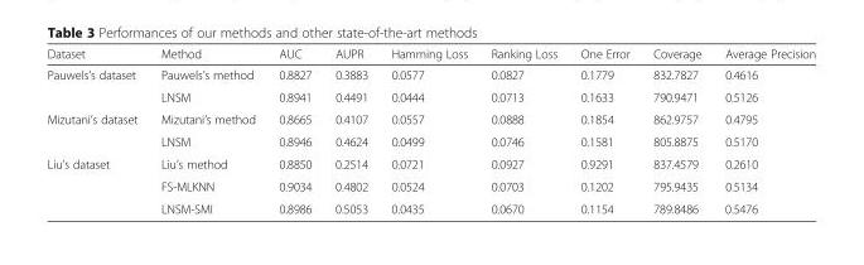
<table><thead><tr><td>Dataset</td><td>Method</td><td>AUC</td><td>AUPR</td><td>Hamming Loss</td><td>Ranking Loss</td><td>One Error</td><td>Coverage</td><td>Average Precision</td></tr></thead><tbody><tr><td rowspan="2">Pauwels’s dataset</td><td>Pauwels’s method</td><td>0.8827</td><td>0.3883</td><td>0.0577</td><td>0.0827</td><td>0.1779</td><td>832.7827</td><td>0.4616</td></tr><tr><td>LNSM</td><td>0.8941</td><td>0.4491</td><td>0.0444</td><td>0.0713</td><td>0.1633</td><td>790.9471</td><td>0.5126</td></tr><tr><td rowspan="2">Mizutani’s dataset</td><td>Mizutani’s method</td><td>0.8665</td><td>0.4107</td><td>0.0557</td><td>0.0888</td><td>0.1854</td><td>862.9757</td><td>0.4795</td></tr><tr><td>LNSM</td><td>0.8946</td><td>0.4624</td><td>0.0499</td><td>0.0746</td><td>0.1581</td><td>805.8875</td><td>0.5170</td></tr><tr><td rowspan="3">Liu’s dataset</td><td>Liu’s method</td><td>0.8850</td><td>0.2514</td><td>0.0721</td><td>0.0927</td><td>0.9291</td><td>837.4579</td><td>0.2610</td></tr><tr><td>FS-MLKNN</td><td>0.9034</td><td>0.4802</td><td>0.0524</td><td>0.0703</td><td>0.1202</td><td>795.9435</td><td>0.5134</td></tr><tr><td>LNSM-SMI</td><td>0.8986</td><td>0.5053</td><td>0.0435</td><td>0.0670</td><td>0.1154</td><td>789.8486</td><td>0.5476</td></tr></tbody></table>